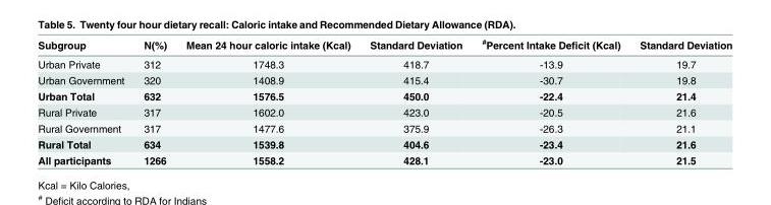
<table><thead><tr><td>Subgroup</td><td>N(%)</td><td>Mean 24 hour caloric intake (Kcal)</td><td>Standard Deviation</td><td><sup>#</sup>Percent Intake Deficit (Kcal)</td><td>Standard Deviation</td></tr></thead><tbody><tr><td>Urban Private</td><td>312</td><td>1748.3</td><td>418.7</td><td>-13.9</td><td>19.7</td></tr><tr><td>Urban Government</td><td>320</td><td>1408.9</td><td>415.4</td><td>-30.7</td><td>19.8</td></tr><tr><td>Urban Total</td><td>632</td><td>1576.5</td><td>450.0</td><td>-22.4</td><td>21.4</td></tr><tr><td>Rural Private</td><td>317</td><td>1602.0</td><td>423.0</td><td>-20.5</td><td>21.6</td></tr><tr><td>Rural Government</td><td>317</td><td>1477.6</td><td>375.9</td><td>-26.3</td><td>21.1</td></tr><tr><td>Rural Total</td><td>634</td><td>1539.8</td><td>404.6</td><td>-23.4</td><td>21.6</td></tr><tr><td>All participants</td><td>1266</td><td>1558.2</td><td>428.1</td><td>-23.0</td><td>21.5</td></tr></tbody></table>